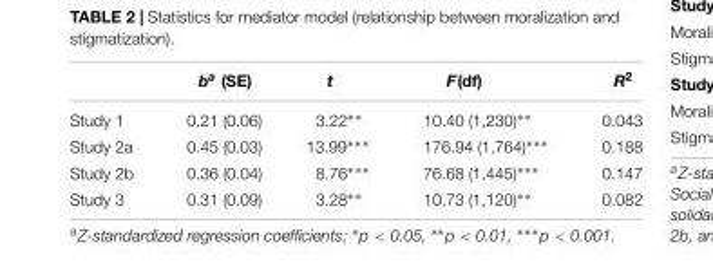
<table><thead><tr><td></td><td>b<sup>a</sup> (SE)</td><td>t</td><td>F(df)</td><td>R<sup>2</sup></td></tr></thead><tbody><tr><td>Study 1</td><td>0.21 (0.06)</td><td>3.22∗∗</td><td>10.40 (1,230)∗∗</td><td>0.043</td></tr><tr><td>Study 2a</td><td>0.45 (0.03)</td><td>13.99∗∗∗</td><td>176.94 (1,764)∗∗∗</td><td>0.188</td></tr><tr><td>Study 2b</td><td>0.36 (0.04)</td><td>8.76∗∗∗</td><td>76.68 (1,445)∗∗∗</td><td>0.147</td></tr><tr><td>Study 3</td><td>0.31 (0.09)</td><td>3.28∗∗</td><td>10.73 (1,120)∗∗</td><td>0.082</td></tr></tbody></table>